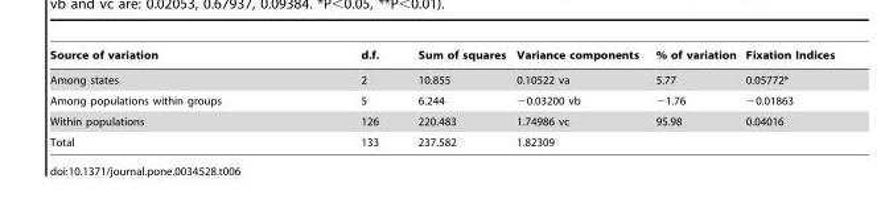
<table><thead><tr><td>Source of variation</td><td>d.f.</td><td>Sum of squares</td><td>Variance components</td><td>% of variation</td><td>Fixation Indices</td></tr></thead><tbody><tr><td>Among states</td><td>2</td><td>10.855</td><td>0.10522 va</td><td>5.77</td><td>0.05772*</td></tr><tr><td>Among populations within groups</td><td>5</td><td>6.244</td><td>−0.03200 vb</td><td>−1.76</td><td>−0.01863</td></tr><tr><td>Within populations</td><td>126</td><td>220.483</td><td>1.74986 vc</td><td>95.98</td><td>0.04016</td></tr><tr><td>Total</td><td>133</td><td>237.582</td><td>1.82309</td><td></td><td></td></tr></tbody></table>